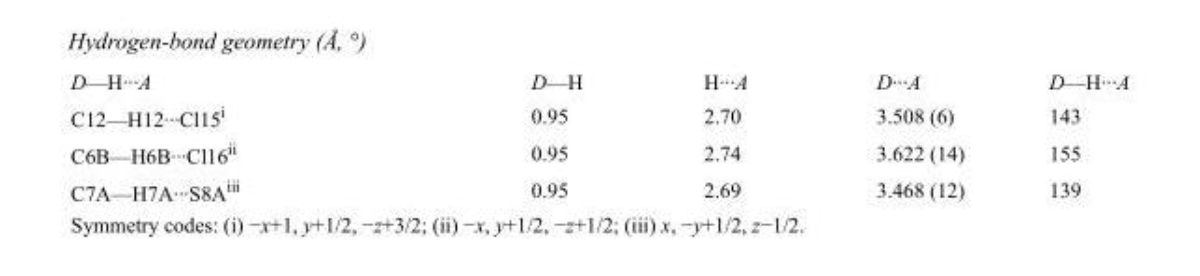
<table><tbody><tr><td>D—H···A</td><td>D—H</td><td>H···A</td><td>D···A</td><td>D—H···A</td></tr><tr><td>C12—H12···Cl15<sup>i</sup></td><td>0.95</td><td>2.70</td><td>3.508 (6)</td><td>143</td></tr><tr><td>C6B—H6B···Cl16<sup>ii</sup></td><td>0.95</td><td>2.74</td><td>3.622 (14)</td><td>155</td></tr><tr><td>C7A—H7A···S8A<sup>iii</sup></td><td>0.95</td><td>2.69</td><td>3.468 (12)</td><td>139</td></tr></tbody></table>